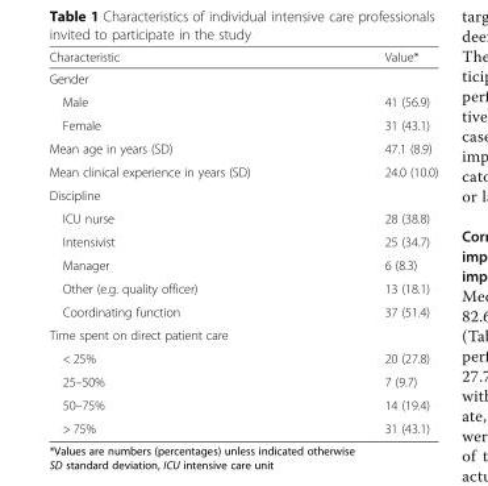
<table><thead><tr><td>Characteristic</td><td>Value*</td></tr></thead><tbody><tr><td colspan="2">Gender</td></tr><tr><td>Male</td><td>41 (56.9)</td></tr><tr><td>Female</td><td>31 (43.1)</td></tr><tr><td>Mean age in years (SD)</td><td>47.1 (8.9)</td></tr><tr><td>Mean clinical experience in years (SD)</td><td>24.0 (10.0)</td></tr><tr><td colspan="2">Discipline</td></tr><tr><td>ICU nurse</td><td>28 (38.8)</td></tr><tr><td>Intensivist</td><td>25 (34.7)</td></tr><tr><td>Manager</td><td>6 (8.3)</td></tr><tr><td>Other (e.g. quality officer)</td><td>13 (18.1)</td></tr><tr><td>Coordinating function</td><td>37 (51.4)</td></tr><tr><td colspan="2">Time spent on direct patient care</td></tr><tr><td>&lt; 25%</td><td>20 (27.8)</td></tr><tr><td>25–50%</td><td>7 (9.7)</td></tr><tr><td>50–75%</td><td>14 (19.4)</td></tr><tr><td>&gt; 75%</td><td>31 (43.1)</td></tr></tbody></table>